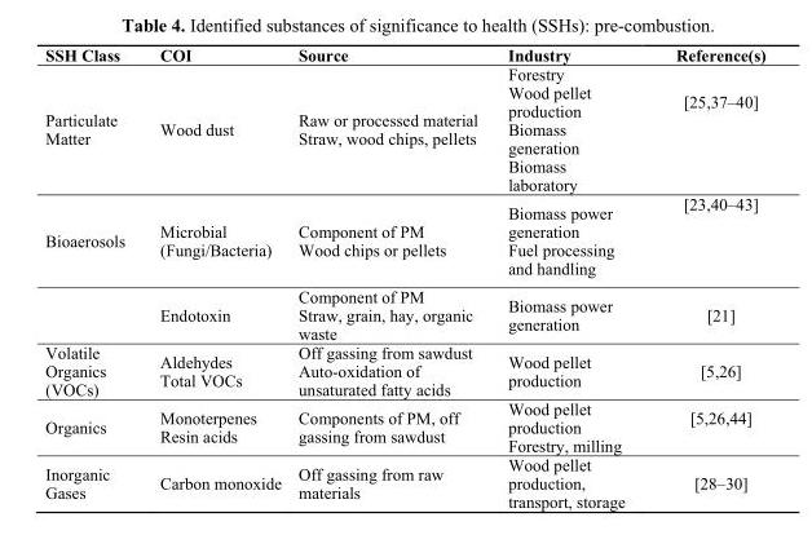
<table><thead><tr><td>SSH Class</td><td>COI</td><td>Source</td><td>Industry</td><td>Reference(s)</td></tr></thead><tbody><tr><td>Particulate Matter</td><td>Wood dust</td><td>Raw or processed material Straw, wood chips, pellets</td><td>Forestry Wood pellet production Biomass generation Biomass laboratory</td><td>[25,37–40]</td></tr><tr><td rowspan="2">Bioaerosols</td><td>Microbial (Fungi/Bacteria)</td><td>Component of PM Wood chips or pellets</td><td>Biomass power generation Fuel processing and handling</td><td>[23,40–43]</td></tr><tr><td>Endotoxin</td><td>Component of PM Straw, grain, hay, organic waste</td><td>Biomass power generation</td><td>[21]</td></tr><tr><td>Volatile Organics (VOCs)</td><td>Aldehydes Total VOCs</td><td>Off gassing from sawdust Auto-oxidation of unsaturated fatty acids</td><td>Wood pellet production</td><td>[5,26]</td></tr><tr><td>Organics</td><td>Monoterpenes Resin acids</td><td>Components of PM, off gassing from sawdust</td><td>Wood pellet production Forestry, milling</td><td>[5,26,44]</td></tr><tr><td>Inorganic Gases</td><td>Carbon monoxide</td><td>Off gassing from raw materials</td><td>Wood pellet production, transport, storage</td><td>[28–30]</td></tr></tbody></table>